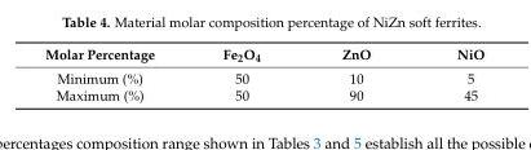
<table><thead><tr><td>Molar Percentage</td><td>Fe<sub>2</sub>O<sub>4</sub></td><td>ZnO</td><td>NiO</td></tr></thead><tbody><tr><td>Minimum (%)</td><td>50</td><td>10</td><td>5</td></tr><tr><td>Maximum (%)</td><td>50</td><td>90</td><td>45</td></tr></tbody></table>